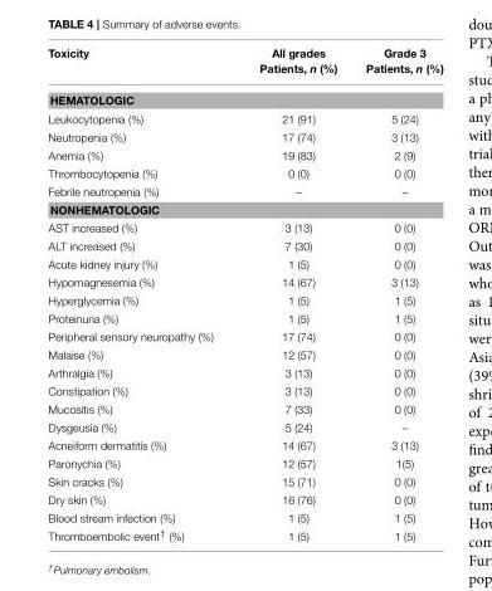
<table><thead><tr><td>Toxicity</td><td>All grades Patients, n (%)</td><td>Grade 3 Patients, n (%)</td></tr></thead><tbody><tr><td colspan="3">HEMATOLOGIC</td></tr><tr><td>Leukocytopenia (%)</td><td>21 (91)</td><td>5 (24)</td></tr><tr><td>Neutropenia (%)</td><td>17 (74)</td><td>3 (13)</td></tr><tr><td>Anemia (%)</td><td>19 (83)</td><td>2 (9)</td></tr><tr><td>Thrombocytopenia (%)</td><td>0 (0)</td><td>0 (0)</td></tr><tr><td>Febrile neutropenia (%)</td><td>–</td><td>–</td></tr><tr><td colspan="3">NONHEMATOLOGIC</td></tr><tr><td>AST increased (%)</td><td>3 (13)</td><td>0 (0)</td></tr><tr><td>ALT increased (%)</td><td>7 (30)</td><td>0 (0)</td></tr><tr><td>Acute kidney injury (%)</td><td>1 (5)</td><td>0 (0)</td></tr><tr><td>Hypomagnesemia (%)</td><td>14 (67)</td><td>3 (13)</td></tr><tr><td>Hyperglycemia (%)</td><td>1 (5)</td><td>1 (5)</td></tr><tr><td>Proteinuria (%)</td><td>1 (5)</td><td>1 (5)</td></tr><tr><td>Peripheral sensory neuropathy (%)</td><td>17 (74)</td><td>0 (0)</td></tr><tr><td>Malaise (%)</td><td>12 (57)</td><td>0 (0)</td></tr><tr><td>Arthralgia (%)</td><td>3 (13)</td><td>0 (0)</td></tr><tr><td>Constipation (%)</td><td>3 (13)</td><td>0 (0)</td></tr><tr><td>Mucositis (%)</td><td>7 (33)</td><td>0 (0)</td></tr><tr><td>Dysgeusia (%)</td><td>5 (24)</td><td>–</td></tr><tr><td>Acneiform dermatitis (%)</td><td>14 (67)</td><td>3 (13)</td></tr><tr><td>Paronychia (%)</td><td>12 (57)</td><td>1(5)</td></tr><tr><td>Skin cracks (%)</td><td>15 (71)</td><td>0 (0)</td></tr><tr><td>Dry skin (%)</td><td>16 (76)</td><td>0 (0)</td></tr><tr><td>Blood stream infection (%)</td><td>1 (5)</td><td>1 (5)</td></tr><tr><td>Thromboembolic event<sup>†</sup> (%)</td><td>1 (5)</td><td>1 (5)</td></tr></tbody></table>